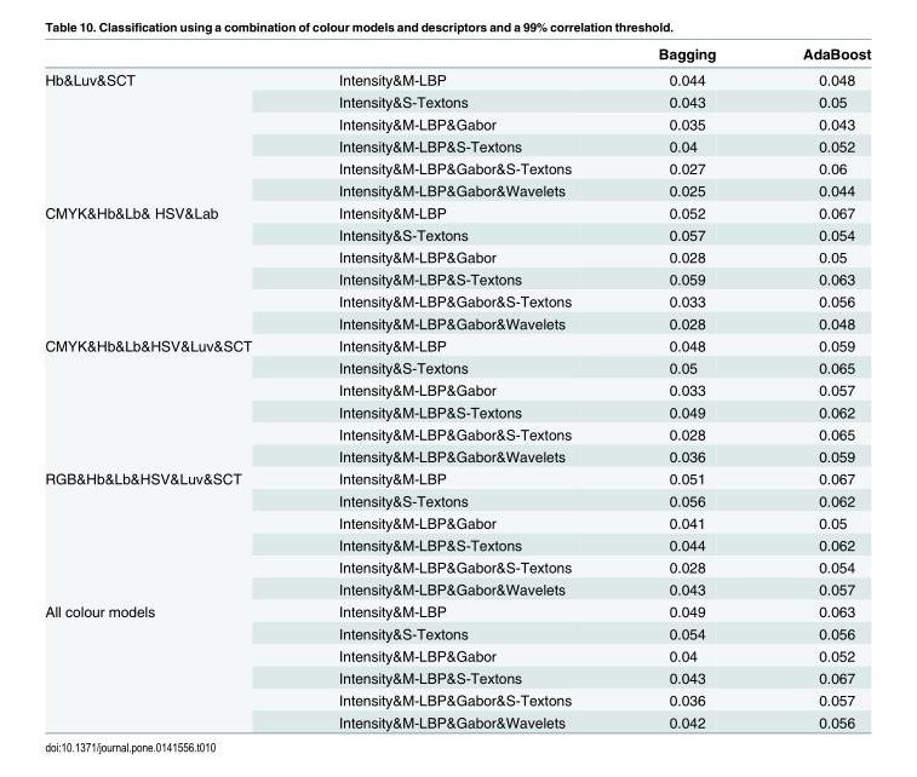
<table><thead><tr><td></td><td></td><td>Bagging</td><td>AdaBoost</td></tr></thead><tbody><tr><td rowspan="6">Hb&amp;Luv&amp;SCT</td><td>Intensity&amp;M-LBP</td><td>0.044</td><td>0.048</td></tr><tr><td>Intensity&amp;S-Textons</td><td>0.043</td><td>0.05</td></tr><tr><td>Intensity&amp;M-LBP&amp;Gabor</td><td>0.035</td><td>0.043</td></tr><tr><td>Intensity&amp;M-LBP&amp;S-Textons</td><td>0.04</td><td>0.052</td></tr><tr><td>Intensity&amp;M-LBP&amp;Gabor&amp;S-Textons</td><td>0.027</td><td>0.06</td></tr><tr><td>Intensity&amp;M-LBP&amp;Gabor&amp;Wavelets</td><td>0.025</td><td>0.044</td></tr><tr><td rowspan="6">CMYK&amp;Hb&amp;Lb&amp; HSV&amp;Lab</td><td>Intensity&amp;M-LBP</td><td>0.052</td><td>0.067</td></tr><tr><td>Intensity&amp;S-Textons</td><td>0.057</td><td>0.054</td></tr><tr><td>Intensity&amp;M-LBP&amp;Gabor</td><td>0.028</td><td>0.05</td></tr><tr><td>Intensity&amp;M-LBP&amp;S-Textons</td><td>0.059</td><td>0.063</td></tr><tr><td>Intensity&amp;M-LBP&amp;Gabor&amp;S-Textons</td><td>0.033</td><td>0.056</td></tr><tr><td>Intensity&amp;M-LBP&amp;Gabor&amp;Wavelets</td><td>0.028</td><td>0.048</td></tr><tr><td rowspan="6">CMYK&amp;Hb&amp;Lb&amp;HSV&amp;Luv&amp;SCT</td><td>Intensity&amp;M-LBP</td><td>0.048</td><td>0.059</td></tr><tr><td>Intensity&amp;S-Textons</td><td>0.05</td><td>0.065</td></tr><tr><td>Intensity&amp;M-LBP&amp;Gabor</td><td>0.033</td><td>0.057</td></tr><tr><td>Intensity&amp;M-LBP&amp;S-Textons</td><td>0.049</td><td>0.062</td></tr><tr><td>Intensity&amp;M-LBP&amp;Gabor&amp;S-Textons</td><td>0.028</td><td>0.065</td></tr><tr><td>Intensity&amp;M-LBP&amp;Gabor&amp;Wavelets</td><td>0.036</td><td>0.059</td></tr><tr><td rowspan="6">RGB&amp;Hb&amp;Lb&amp;HSV&amp;Luv&amp;SCT</td><td>Intensity&amp;M-LBP</td><td>0.051</td><td>0.067</td></tr><tr><td>Intensity&amp;S-Textons</td><td>0.056</td><td>0.062</td></tr><tr><td>Intensity&amp;M-LBP&amp;Gabor</td><td>0.041</td><td>0.05</td></tr><tr><td>Intensity&amp;M-LBP&amp;S-Textons</td><td>0.044</td><td>0.062</td></tr><tr><td>Intensity&amp;M-LBP&amp;Gabor&amp;S-Textons</td><td>0.028</td><td>0.054</td></tr><tr><td>Intensity&amp;M-LBP&amp;Gabor&amp;Wavelets</td><td>0.043</td><td>0.057</td></tr><tr><td rowspan="6">All colour models</td><td>Intensity&amp;M-LBP</td><td>0.049</td><td>0.063</td></tr><tr><td>Intensity&amp;S-Textons</td><td>0.054</td><td>0.056</td></tr><tr><td>Intensity&amp;M-LBP&amp;Gabor</td><td>0.04</td><td>0.052</td></tr><tr><td>Intensity&amp;M-LBP&amp;S-Textons</td><td>0.043</td><td>0.067</td></tr><tr><td>Intensity&amp;M-LBP&amp;Gabor&amp;S-Textons</td><td>0.036</td><td>0.057</td></tr><tr><td>Intensity&amp;M-LBP&amp;Gabor&amp;Wavelets</td><td>0.042</td><td>0.056</td></tr></tbody></table>